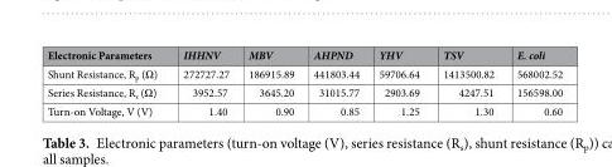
<table><thead><tr><td>Electronic Parameters</td><td>IHHNV</td><td>MBV</td><td>AHPND</td><td>YHV</td><td>TSV</td><td>E. coli</td></tr></thead><tbody><tr><td>Shunt Resistance, R<sub>p</sub> (Ω)</td><td>272727.27</td><td>186915.89</td><td>441803.44</td><td>59706.64</td><td>1413500.82</td><td>568002.52</td></tr><tr><td>Series Resistance, R<sub>s</sub> (Ω)</td><td>3952.57</td><td>3645.20</td><td>31015.77</td><td>2903.69</td><td>4247.51</td><td>156598.00</td></tr><tr><td>Turn-on Voltage, V (V)</td><td>1.40</td><td>0.90</td><td>0.85</td><td>1.25</td><td>1.30</td><td>0.60</td></tr></tbody></table>